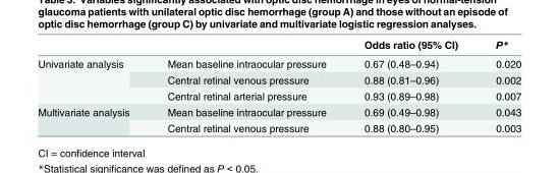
<table><thead><tr><td></td><td></td><td>Odds ratio (95% CI)</td><td>P*</td></tr></thead><tbody><tr><td rowspan="3">Univariate analysis</td><td>Mean baseline intraocular pressure</td><td>0.67 (0.48–0.94)</td><td>0.020</td></tr><tr><td>Central retinal venous pressure</td><td>0.88 (0.81–0.96)</td><td>0.002</td></tr><tr><td>Central retinal arterial pressure</td><td>0.93 (0.89–0.98)</td><td>0.007</td></tr><tr><td rowspan="2">Multivariate analysis</td><td>Mean baseline intraocular pressure</td><td>0.69 (0.49–0.98)</td><td>0.043</td></tr><tr><td>Central retinal venous pressure</td><td>0.88 (0.80–0.95)</td><td>0.003</td></tr></tbody></table>